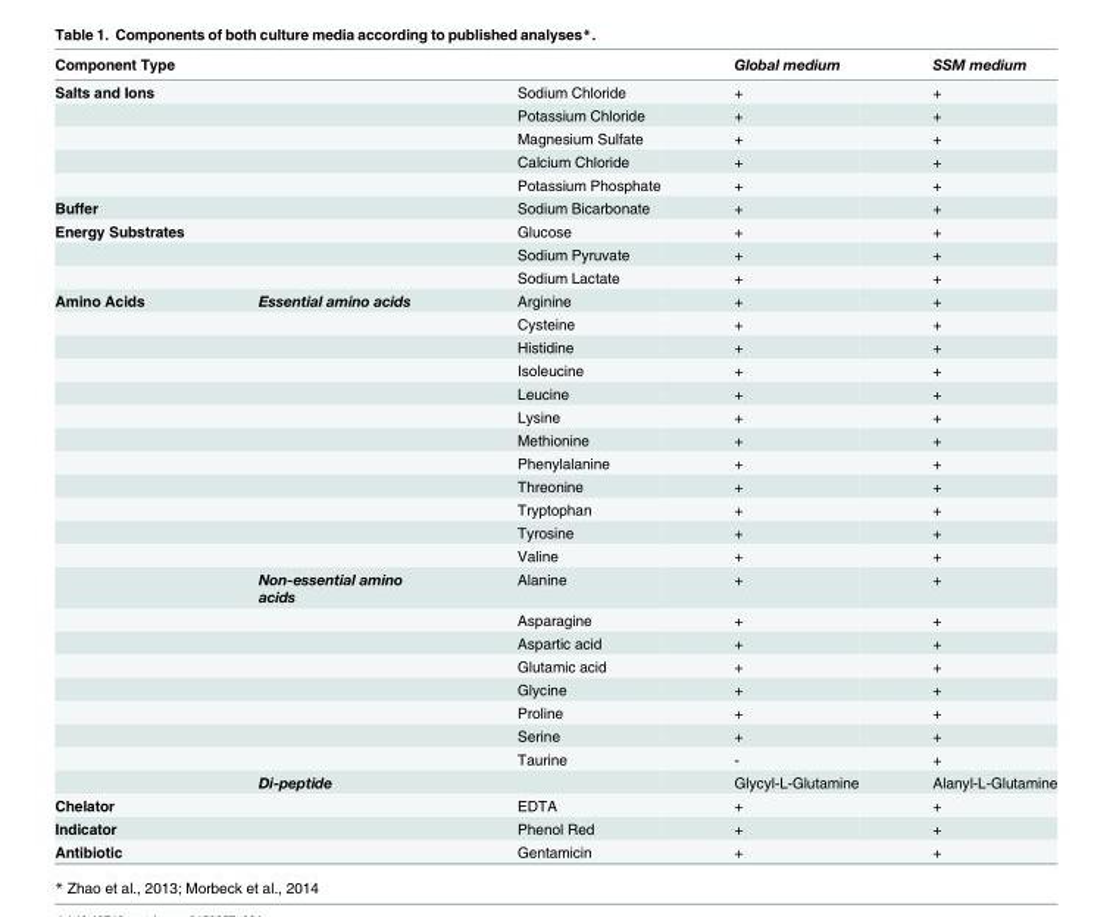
<table><thead><tr><td colspan="2">Component Type</td><td rowspan="2">Sodium Chloride</td><td rowspan="2">Global medium +</td><td rowspan="2">SSM medium +</td></tr><tr><td>Salts and Ions</td><td></td></tr></thead><tbody><tr><td></td><td></td><td>Potassium Chloride</td><td>+</td><td>+</td></tr><tr><td></td><td></td><td>Magnesium Sulfate</td><td>+</td><td>+</td></tr><tr><td></td><td></td><td>Calcium Chloride</td><td>+</td><td>+</td></tr><tr><td></td><td></td><td>Potassium Phosphate</td><td>+</td><td>+</td></tr><tr><td>Buffer</td><td></td><td>Sodium Bicarbonate</td><td>+</td><td>+</td></tr><tr><td rowspan="3">Energy Substrates</td><td></td><td>Glucose</td><td>+</td><td>+</td></tr><tr><td></td><td>Sodium Pyruvate</td><td>+</td><td>+</td></tr><tr><td></td><td>Sodium Lactate</td><td>+</td><td>+</td></tr><tr><td rowspan="21">Amino Acids</td><td>Essential amino acids</td><td>Arginine</td><td>+</td><td>+</td></tr><tr><td></td><td>Cysteine</td><td>+</td><td>+</td></tr><tr><td></td><td>Histidine</td><td>+</td><td>+</td></tr><tr><td></td><td>Isoleucine</td><td>+</td><td>+</td></tr><tr><td></td><td>Leucine</td><td>+</td><td>+</td></tr><tr><td></td><td>Lysine</td><td>+</td><td>+</td></tr><tr><td></td><td>Methionine</td><td>+</td><td>+</td></tr><tr><td></td><td>Phenylalanine</td><td>+</td><td>+</td></tr><tr><td></td><td>Threonine</td><td>+</td><td>+</td></tr><tr><td></td><td>Tryptophan</td><td>+</td><td>+</td></tr><tr><td></td><td>Tyrosine</td><td>+</td><td>+</td></tr><tr><td></td><td>Valine</td><td>+</td><td>+</td></tr><tr><td>Non-essential amino acids</td><td>Alanine</td><td>+</td><td>+</td></tr><tr><td></td><td>Asparagine</td><td>+</td><td>+</td></tr><tr><td></td><td>Aspartic acid</td><td>+</td><td>+</td></tr><tr><td></td><td>Glutamic acid</td><td>+</td><td>+</td></tr><tr><td></td><td>Glycine</td><td>+</td><td>+</td></tr><tr><td></td><td>Proline</td><td>+</td><td>+</td></tr><tr><td></td><td>Serine</td><td>+</td><td>+</td></tr><tr><td></td><td>Taurine</td><td>-</td><td>+</td></tr><tr><td>Di-peptide</td><td></td><td>Glycyl-L-Glutamine</td><td>Alanyl-L-Glutamine</td></tr><tr><td>Chelator</td><td></td><td>EDTA</td><td>+</td><td>+</td></tr><tr><td>Indicator</td><td></td><td>Phenol Red</td><td>+</td><td>+</td></tr><tr><td>Antibiotic</td><td></td><td>Gentamicin</td><td>+</td><td>+</td></tr></tbody></table>